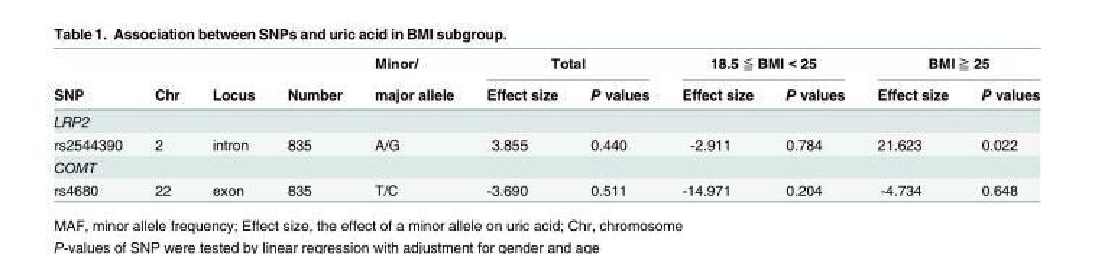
<table><thead><tr><td rowspan="2">SNP</td><td rowspan="2">Chr</td><td rowspan="2">Locus</td><td rowspan="2">Number</td><td rowspan="2">Minor/ major allele</td><td colspan="2">Total</td><td colspan="2">18.5 ≦ BMI &lt; 25</td><td colspan="2">BMI ≧ 25</td></tr><tr><td>Effect size</td><td>P values</td><td>Effect size</td><td>P values</td><td>Effect size</td><td>P values</td></tr></thead><tbody><tr><td colspan="11">LRP2</td></tr><tr><td>rs2544390</td><td>2</td><td>intron</td><td>835</td><td>A/G</td><td>3.855</td><td>0.440</td><td>-2.911</td><td>0.784</td><td>21.623</td><td>0.022</td></tr><tr><td colspan="11">COMT</td></tr><tr><td>rs4680</td><td>22</td><td>exon</td><td>835</td><td>T/C</td><td>-3.690</td><td>0.511</td><td>-14.971</td><td>0.204</td><td>-4.734</td><td>0.648</td></tr></tbody></table>